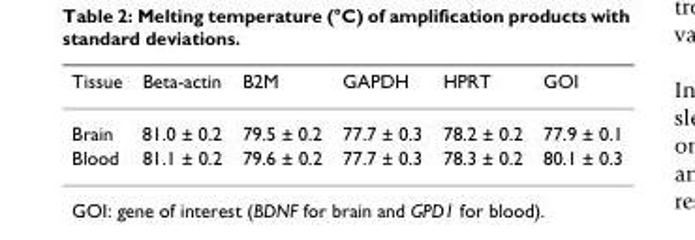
<table><thead><tr><td>Tissue</td><td>Beta-actin</td><td>B2M</td><td>GAPDH</td><td>HPRT</td><td>GOI</td></tr></thead><tbody><tr><td>Brain</td><td>81.0 ± 0.2</td><td>79.5 ± 0.2</td><td>77.7 ± 0.3</td><td>78.2 ± 0.2</td><td>77.9 ± 0.1</td></tr><tr><td>Blood</td><td>81.1 ± 0.2</td><td>79.6 ± 0.2</td><td>77.7 ± 0.3</td><td>78.3 ± 0.2</td><td>80.1 ± 0.3</td></tr></tbody></table>